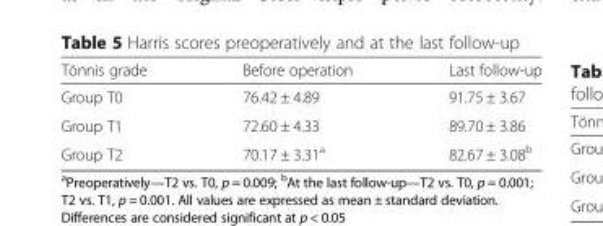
<table><thead><tr><td>Tönnis grade</td><td>Before operation</td><td>Last follow-up</td></tr></thead><tbody><tr><td>Group T0</td><td>76.42 ± 4.89</td><td>91.75 ± 3.67</td></tr><tr><td>Group T1</td><td>72.60 ± 4.33</td><td>89.70 ± 3.86</td></tr><tr><td>Group T2</td><td>70.17 ± 3.31<sup>a</sup></td><td>82.67 ± 3.08<sup>b</sup></td></tr></tbody></table>